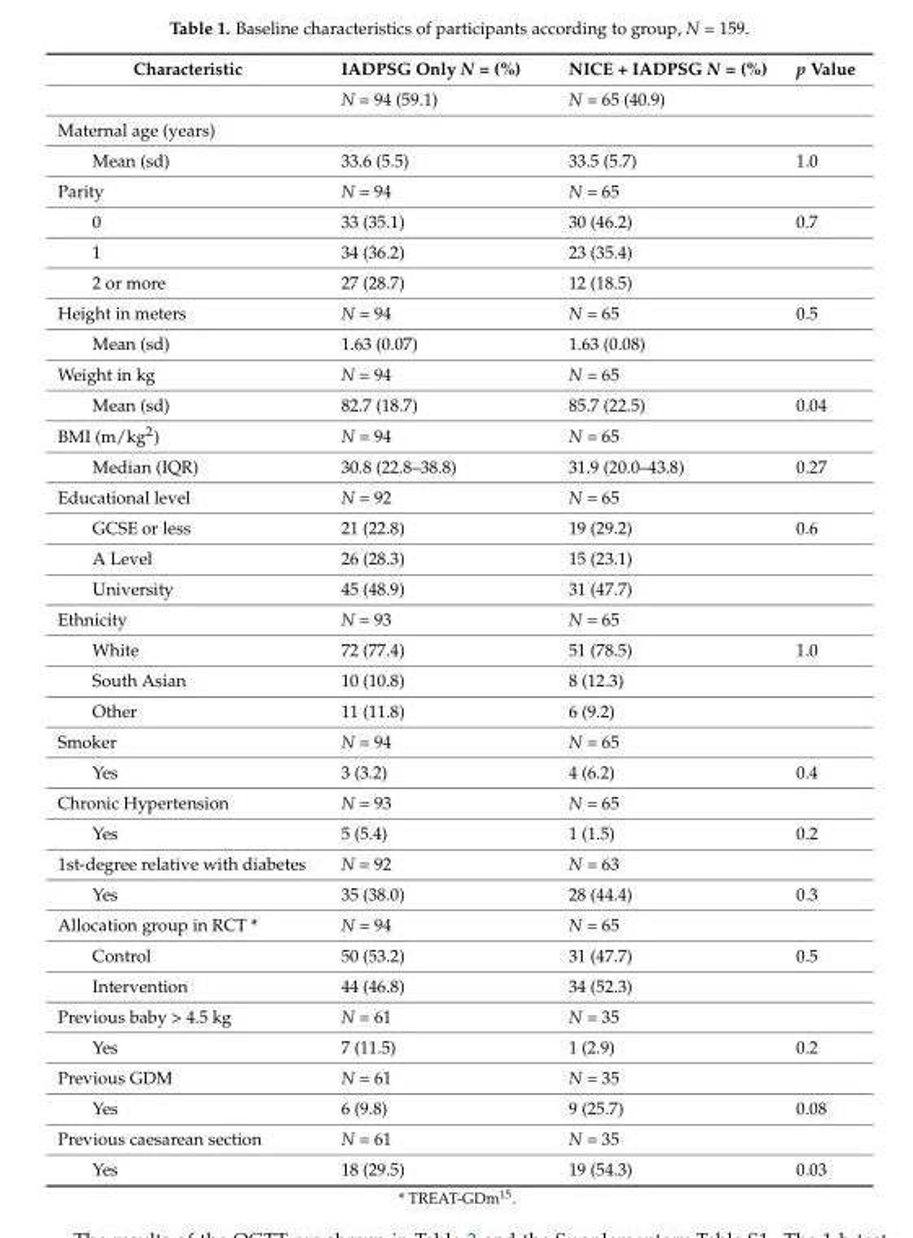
<table><thead><tr><td>Characteristic</td><td>IADPSG Only N = (%)</td><td>NICE + IADPSG N = (%)</td><td>p Value</td></tr></thead><tbody><tr><td></td><td>N = 94 (59.1)</td><td>N = 65 (40.9)</td><td></td></tr><tr><td colspan="4">Maternal age (years)</td></tr><tr><td>Mean (sd)</td><td>33.6 (5.5)</td><td>33.5 (5.7)</td><td>1.0</td></tr><tr><td>Parity</td><td>N = 94</td><td>N = 65</td><td></td></tr><tr><td>0</td><td>33 (35.1)</td><td>30 (46.2)</td><td>0.7</td></tr><tr><td>1</td><td>34 (36.2)</td><td>23 (35.4)</td><td></td></tr><tr><td>2 or more</td><td>27 (28.7)</td><td>12 (18.5)</td><td></td></tr><tr><td>Height in meters</td><td>N = 94</td><td>N = 65</td><td>0.5</td></tr><tr><td>Mean (sd)</td><td>1.63 (0.07)</td><td>1.63 (0.08)</td><td></td></tr><tr><td>Weight in kg</td><td>N = 94</td><td>N = 65</td><td></td></tr><tr><td>Mean (sd)</td><td>82.7 (18.7)</td><td>85.7 (22.5)</td><td>0.04</td></tr><tr><td>BMI (m/kg<sup>2</sup>)</td><td>N = 94</td><td>N = 65</td><td></td></tr><tr><td>Median (IQR)</td><td>30.8 (22.8–38.8)</td><td>31.9 (20.0–43.8)</td><td>0.27</td></tr><tr><td>Educational level</td><td>N = 92</td><td>N = 65</td><td></td></tr><tr><td>GCSE or less</td><td>21 (22.8)</td><td>19 (29.2)</td><td>0.6</td></tr><tr><td>A Level</td><td>26 (28.3)</td><td>15 (23.1)</td><td></td></tr><tr><td>University</td><td>45 (48.9)</td><td>31 (47.7)</td><td></td></tr><tr><td>Ethnicity</td><td>N = 93</td><td>N = 65</td><td></td></tr><tr><td>White</td><td>72 (77.4)</td><td>51 (78.5)</td><td>1.0</td></tr><tr><td>South Asian</td><td>10 (10.8)</td><td>8 (12.3)</td><td></td></tr><tr><td>Other</td><td>11 (11.8)</td><td>6 (9.2)</td><td></td></tr><tr><td>Smoker</td><td>N = 94</td><td>N = 65</td><td></td></tr><tr><td>Yes</td><td>3 (3.2)</td><td>4 (6.2)</td><td>0.4</td></tr><tr><td>Chronic Hypertension</td><td>N = 93</td><td>N = 65</td><td></td></tr><tr><td>Yes</td><td>5 (5.4)</td><td>1 (1.5)</td><td>0.2</td></tr><tr><td>1st-degree relative with diabetes</td><td>N = 92</td><td>N = 63</td><td></td></tr><tr><td>Yes</td><td>35 (38.0)</td><td>28 (44.4)</td><td>0.3</td></tr><tr><td>Allocation group in RCT *</td><td>N = 94</td><td>N = 65</td><td></td></tr><tr><td>Control</td><td>50 (53.2)</td><td>31 (47.7)</td><td>0.5</td></tr><tr><td>Intervention</td><td>44 (46.8)</td><td>34 (52.3)</td><td></td></tr><tr><td>Previous baby &gt; 4.5 kg</td><td>N = 61</td><td>N = 35</td><td></td></tr><tr><td>Yes</td><td>7 (11.5)</td><td>1 (2.9)</td><td>0.2</td></tr><tr><td>Previous GDM</td><td>N = 61</td><td>N = 35</td><td></td></tr><tr><td>Yes</td><td>6 (9.8)</td><td>9 (25.7)</td><td>0.08</td></tr><tr><td>Previous caesarean section</td><td>N = 61</td><td>N = 35</td><td></td></tr><tr><td>Yes</td><td>18 (29.5)</td><td>19 (54.3)</td><td>0.03</td></tr></tbody></table>